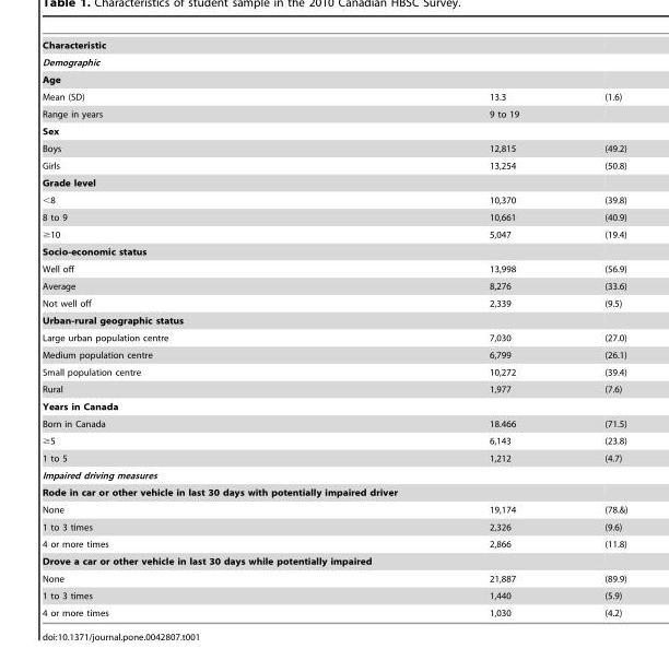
<table><tbody><tr><td colspan="3">Characteristic</td></tr><tr><td colspan="3">Demographic</td></tr><tr><td colspan="3">Age</td></tr><tr><td>Mean (SD)</td><td>13.3</td><td>(1.6)</td></tr><tr><td>Range in years</td><td>9 to 19</td><td></td></tr><tr><td colspan="3">Sex</td></tr><tr><td>Boys</td><td>12,815</td><td>(49.2)</td></tr><tr><td>Girls</td><td>13,254</td><td>(50.8)</td></tr><tr><td colspan="3">Grade level</td></tr><tr><td>&lt;8</td><td>10,370</td><td>(39.8)</td></tr><tr><td>8 to 9</td><td>10,661</td><td>(40.9)</td></tr><tr><td>≥10</td><td>5,047</td><td>(19.4)</td></tr><tr><td colspan="3">Socio-economic status</td></tr><tr><td>Well off</td><td>13,998</td><td>(56.9)</td></tr><tr><td>Average</td><td>8,276</td><td>(33.6)</td></tr><tr><td>Not well off</td><td>2,339</td><td>(9.5)</td></tr><tr><td colspan="3">Urban-rural geographic status</td></tr><tr><td>Large urban population centre</td><td>7,030</td><td>(27.0)</td></tr><tr><td>Medium population centre</td><td>6,799</td><td>(26.1)</td></tr><tr><td>Small population centre</td><td>10,272</td><td>(39.4)</td></tr><tr><td>Rural</td><td>1,977</td><td>(7.6)</td></tr><tr><td colspan="3">Years in Canada</td></tr><tr><td>Born in Canada</td><td>18.466</td><td>(71.5)</td></tr><tr><td>≥5</td><td>6,143</td><td>(23.8)</td></tr><tr><td>1 to 5</td><td>1,212</td><td>(4.7)</td></tr><tr><td colspan="3">Impaired driving measures</td></tr><tr><td colspan="3">Rode in car or other vehicle in last 30 days with potentially impaired driver</td></tr><tr><td>None</td><td>19,174</td><td>(78.&amp;)</td></tr><tr><td>1 to 3 times</td><td>2,326</td><td>(9.6)</td></tr><tr><td>4 or more times</td><td>2,866</td><td>(11.8)</td></tr><tr><td colspan="3">Drove a car or other vehicle in last 30 days while potentially impaired</td></tr><tr><td>None</td><td>21,887</td><td>(89.9)</td></tr><tr><td>1 to 3 times</td><td>1,440</td><td>(5.9)</td></tr><tr><td>4 or more times</td><td>1,030</td><td>(4.2)</td></tr></tbody></table>